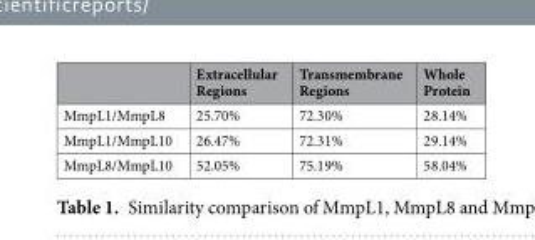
<table><thead><tr><td></td><td>Extracellular Regions</td><td>Transmembrane Regions</td><td>Whole Protein</td></tr></thead><tbody><tr><td>MmpL1/MmpL8</td><td>25.70%</td><td>72.30%</td><td>28.14%</td></tr><tr><td>MmpL1/MmpL10</td><td>26.47%</td><td>72.31%</td><td>29.14%</td></tr><tr><td>MmpL8/MmpL10</td><td>52.05%</td><td>75.19%</td><td>58.04%</td></tr></tbody></table>